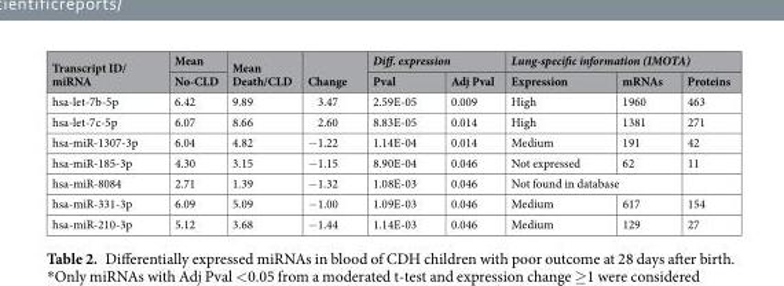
<table><thead><tr><td rowspan="2">Transcript ID/ miRNA</td><td rowspan="2">Mean No-CLD</td><td rowspan="2">Mean Death/CLD</td><td rowspan="2">Change</td><td colspan="2">Diff. expression</td><td colspan="3">Lung-specific information (IMOTA)</td></tr><tr><td>Pval</td><td>Adj Pval</td><td>Expression</td><td>mRNAs</td><td>Proteins</td></tr></thead><tbody><tr><td>hsa-let-7b-5p</td><td>6.42</td><td>9.89</td><td>3.47</td><td>2.59E-05</td><td>0.009</td><td>High</td><td>1960</td><td>463</td></tr><tr><td>hsa-let-7c-5p</td><td>6.07</td><td>8.66</td><td>2.60</td><td>8.83E-05</td><td>0.014</td><td>High</td><td>1381</td><td>271</td></tr><tr><td>hsa-miR-1307-3p</td><td>6.04</td><td>4.82</td><td>−1.22</td><td>1.14E-04</td><td>0.014</td><td>Medium</td><td>191</td><td>42</td></tr><tr><td>hsa-miR-185-3p</td><td>4.30</td><td>3.15</td><td>−1.15</td><td>8.90E-04</td><td>0.046</td><td>Not expressed</td><td>62</td><td>11</td></tr><tr><td>hsa-miR-8084</td><td>2.71</td><td>1.39</td><td>−1.32</td><td>1.08E-03</td><td>0.046</td><td colspan="2">Not found in database</td><td></td></tr><tr><td>hsa-miR-331-3p</td><td>6.09</td><td>5.09</td><td>−1.00</td><td>1.09E-03</td><td>0.046</td><td>Medium</td><td>617</td><td>154</td></tr><tr><td>hsa-miR-210-3p</td><td>5.12</td><td>3.68</td><td>−1.44</td><td>1.14E-03</td><td>0.046</td><td>Medium</td><td>129</td><td>27</td></tr></tbody></table>